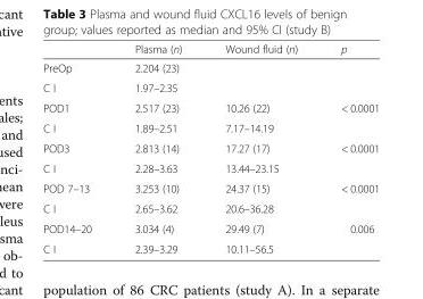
<table><thead><tr><td></td><td>Plasma (n)</td><td>Wound fluid (n)</td><td>p</td></tr></thead><tbody><tr><td>PreOp</td><td>2.204 (23)</td><td></td><td></td></tr><tr><td>C I</td><td>1.97–2.35</td><td></td><td></td></tr><tr><td>POD1</td><td>2.517 (23)</td><td>10.26 (22)</td><td>&lt; 0.0001</td></tr><tr><td>C I</td><td>1.89–2.51</td><td>7.17–14.19</td><td></td></tr><tr><td>POD3</td><td>2.813 (14)</td><td>17.27 (17)</td><td>&lt; 0.0001</td></tr><tr><td>C I</td><td>2.28–3.63</td><td>13.44–23.15</td><td></td></tr><tr><td>POD 7–13</td><td>3.253 (10)</td><td>24.37 (15)</td><td>&lt; 0.0001</td></tr><tr><td>C I</td><td>2.65–3.62</td><td>20.6–36.28</td><td></td></tr><tr><td>POD14–20</td><td>3.034 (4)</td><td>29.49 (7)</td><td>0.006</td></tr><tr><td>C I</td><td>2.39–3.29</td><td>10.11–56.5</td><td></td></tr></tbody></table>